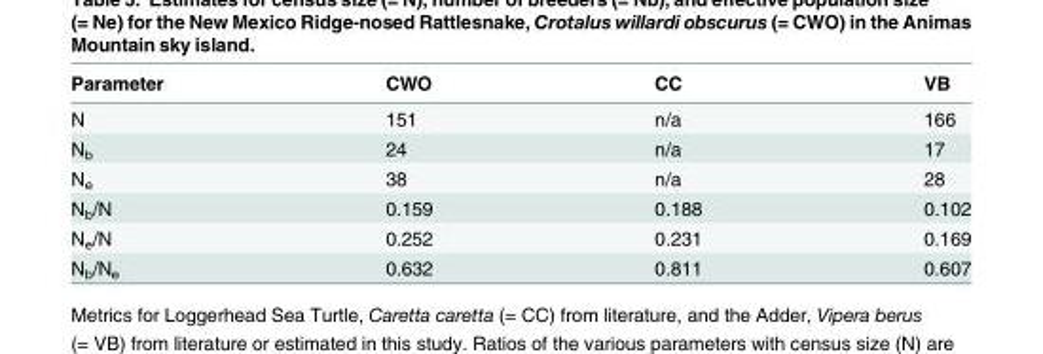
<table><thead><tr><td>Parameter</td><td>CWO</td><td>CC</td><td>VB</td></tr></thead><tbody><tr><td>N</td><td>151</td><td>n/a</td><td>166</td></tr><tr><td>N<sub>b</sub></td><td>24</td><td>n/a</td><td>17</td></tr><tr><td>N<sub>e</sub></td><td>38</td><td>n/a</td><td>28</td></tr><tr><td>N<sub>b</sub>/N</td><td>0.159</td><td>0.188</td><td>0.102</td></tr><tr><td>N<sub>e</sub>/N</td><td>0.252</td><td>0.231</td><td>0.169</td></tr><tr><td>N<sub>b</sub>/N<sub>e</sub></td><td>0.632</td><td>0.811</td><td>0.607</td></tr></tbody></table>